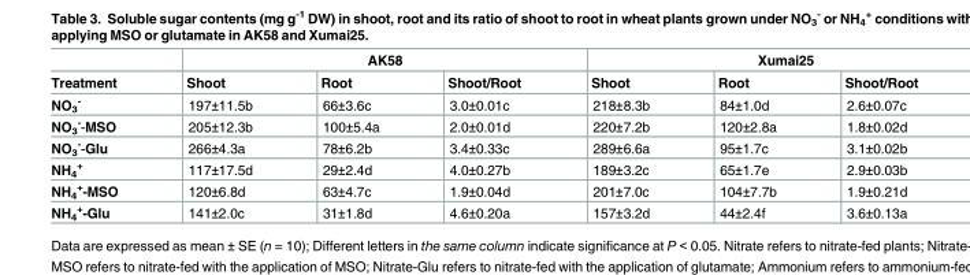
<table><thead><tr><td rowspan="2">Treatment</td><td colspan="3">AK58</td><td colspan="3">Xumai25</td></tr><tr><td>Shoot</td><td>Root</td><td>Shoot/Root</td><td>Shoot</td><td>Root</td><td>Shoot/Root</td></tr></thead><tbody><tr><td>NO<sub>3</sub> <sup>-</sup></td><td>197±11.5b</td><td>66±3.6c</td><td>3.0±0.01c</td><td>218±8.3b</td><td>84±1.0d</td><td>2.6±0.07c</td></tr><tr><td>NO<sub>3</sub> <sup>-</sup>-MSO</td><td>205±12.3b</td><td>100±5.4a</td><td>2.0±0.01d</td><td>220±7.2b</td><td>120±2.8a</td><td>1.8±0.02d</td></tr><tr><td>NO<sub>3</sub> <sup>-</sup>-Glu</td><td>266±4.3a</td><td>78±6.2b</td><td>3.4±0.33c</td><td>289±6.6a</td><td>95±1.7c</td><td>3.1±0.02b</td></tr><tr><td>NH<sub>4</sub> <sup>+</sup></td><td>117±17.5d</td><td>29±2.4d</td><td>4.0±0.27b</td><td>189±3.2c</td><td>65±1.7e</td><td>2.9±0.03b</td></tr><tr><td>NH<sub>4</sub> <sup>+</sup>-MSO</td><td>120±6.8d</td><td>63±4.7c</td><td>1.9±0.04d</td><td>201±7.0c</td><td>104±7.7b</td><td>1.9±0.21d</td></tr><tr><td>NH<sub>4</sub> <sup>+</sup>-Glu</td><td>141±2.0c</td><td>31±1.8d</td><td>4.6±0.20a</td><td>157±3.2d</td><td>44±2.4f</td><td>3.6±0.13a</td></tr></tbody></table>